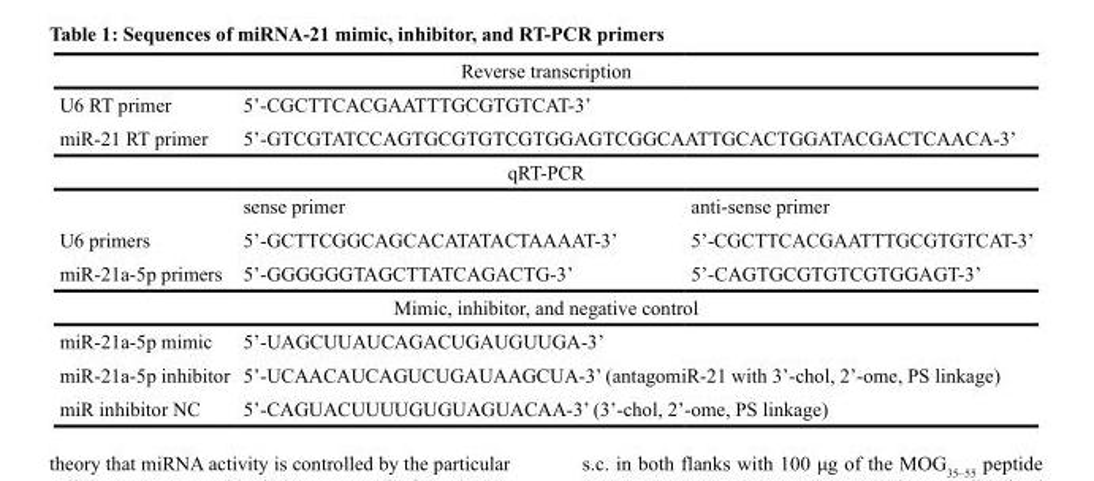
<table><tbody><tr><td colspan="3">Reverse transcription</td></tr><tr><td>U6 RT primer</td><td colspan="2">5’-CGCTTCACGAATTTGCGTGTCAT-3’</td></tr><tr><td>miR-21 RT primer</td><td colspan="2">5’-GTCGTATCCAGTGCGTGTCGTGGAGTCGGCAATTGCACTGGATACGACTCAACA-3’</td></tr><tr><td colspan="3">qRT-PCR</td></tr><tr><td></td><td>sense primer</td><td>anti-sense primer</td></tr><tr><td>U6 primers</td><td>5’-GCTTCGGCAGCACATATACTAAAAT-3’</td><td>5’-CGCTTCACGAATTTGCGTGTCAT-3’</td></tr><tr><td>miR-21a-5p primers</td><td>5’-GGGGGGTAGCTTATCAGACTG-3’</td><td>5’-CAGTGCGTGTCGTGGAGT-3’</td></tr><tr><td colspan="3">Mimic, inhibitor, and negative control</td></tr><tr><td>miR-21a-5p mimic</td><td colspan="2">5’-UAGCUUAUCAGACUGAUGUUGA-3’</td></tr><tr><td>miR-21a-5p inhibitor</td><td colspan="2">5’-UCAACAUCAGUCUGAUAAGCUA-3’ (antagomiR-21 with 3’-chol, 2’-ome, PS linkage)</td></tr><tr><td>miR inhibitor NC</td><td colspan="2">5’-CAGUACUUUUGUGUAGUACAA-3’ (3’-chol, 2’-ome, PS linkage)</td></tr></tbody></table>